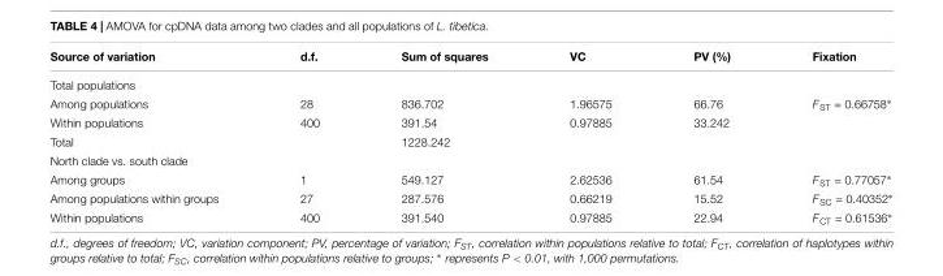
<table><thead><tr><td>Source of variation</td><td>d.f.</td><td>Sum of squares</td><td>VC</td><td>PV (%)</td><td>Fixation</td></tr></thead><tbody><tr><td colspan="6">Total populations</td></tr><tr><td>Among populations</td><td>28</td><td>836.702</td><td>1.96575</td><td>66.76</td><td>F<sub>ST</sub> = 0.66758∗</td></tr><tr><td>Within populations</td><td>400</td><td>391.54</td><td>0.97885</td><td>33.242</td><td></td></tr><tr><td>Total</td><td></td><td>1228.242</td><td></td><td></td><td></td></tr><tr><td colspan="6">North clade vs. south clade</td></tr><tr><td>Among groups</td><td>1</td><td>549.127</td><td>2.62536</td><td>61.54</td><td>F<sub>ST</sub> = 0.77057∗</td></tr><tr><td>Among populations within groups</td><td>27</td><td>287.576</td><td>0.66219</td><td>15.52</td><td>F<sub>SC</sub> = 0.40352∗</td></tr><tr><td>Within populations</td><td>400</td><td>391.540</td><td>0.97885</td><td>22.94</td><td>F<sub>CT</sub> = 0.61536∗</td></tr></tbody></table>